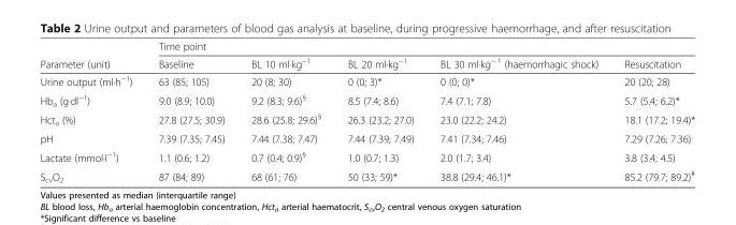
<table><thead><tr><td rowspan="2">Parameter (unit)</td><td colspan="5">Time point</td></tr><tr><td>Baseline</td><td>BL 10 ml∙kg<sup>−1</sup></td><td>BL 20 ml∙kg<sup>−1</sup></td><td>BL 30 ml∙kg<sup>− 1</sup> (haemorrhagic shock)</td><td>Resuscitation</td></tr></thead><tbody><tr><td>Urine output (ml∙h<sup>−1</sup>)</td><td>63 (85; 105)</td><td>20 (8; 30)</td><td>0 (0; 3)*</td><td>0 (0; 0)*</td><td>20 (20; 28)</td></tr><tr><td>Hb<sub>a</sub> (g∙dl<sup>−1</sup>)</td><td>9.0 (8.9; 10.0)</td><td>9.2 (8.3; 9.6)<sup>§</sup></td><td>8.5 (7.4; 8.6)</td><td>7.4 (7.1; 7.8)</td><td>5.7 (5.4; 6.2)*</td></tr><tr><td>Hct<sub>a</sub> (%)</td><td>27.8 (27.5; 30.9)</td><td>28.6 (25.8; 29.6)<sup>§</sup></td><td>26.3 (23.2; 27.0)</td><td>23.0 (22.2; 24.2)</td><td>18.1 (17.2; 19.4)*</td></tr><tr><td>pH</td><td>7.39 (7.35; 7.45)</td><td>7.44 (7.38; 7.47)</td><td>7.44 (7.39; 7.49)</td><td>7.41 (7.34; 7.46)</td><td>7.29 (7.26; 7.36)</td></tr><tr><td>Lactate (mmol∙l<sup>−1</sup>)</td><td>1.1 (0.6; 1.2)</td><td>0.7 (0.4; 0.9)<sup>§</sup></td><td>1.0 (0.7; 1.3)</td><td>2.0 (1.7; 3.4)</td><td>3.8 (3.4; 4.5)</td></tr><tr><td>S<sub>cv</sub>O<sub>2</sub></td><td>87 (84; 89)</td><td>68 (61; 76)</td><td>50 (33; 59)*</td><td>38.8 (29.4; 46.1)*</td><td>85.2 (79.7; 89.2)<sup>#</sup></td></tr></tbody></table>